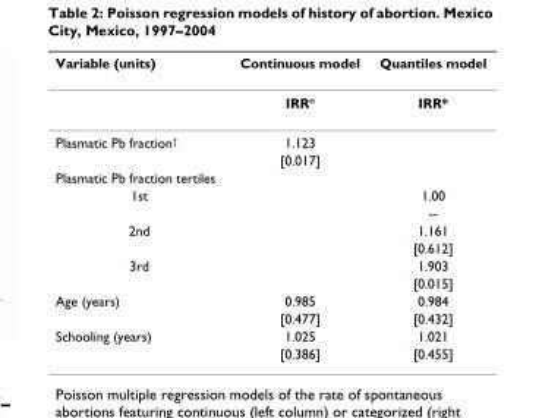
<table><thead><tr><td>Variable (units)</td><td>Continuous model</td><td>Quantiles model</td></tr></thead><tbody><tr><td></td><td>IRR*</td><td>IRR*</td></tr><tr><td rowspan="2">Plasmatic Pb fraction<sup>†</sup></td><td>1.123</td><td></td></tr><tr><td>[0.017]</td><td></td></tr><tr><td colspan="3">Plasmatic Pb fraction tertiles</td></tr><tr><td rowspan="2">1st</td><td></td><td>1.00</td></tr><tr><td></td><td>--</td></tr><tr><td rowspan="2">2nd</td><td></td><td>1.161</td></tr><tr><td></td><td>[0.612]</td></tr><tr><td rowspan="2">3rd</td><td></td><td>1.903</td></tr><tr><td></td><td>[0.015]</td></tr><tr><td rowspan="2">Age (years)</td><td>0.985</td><td>0.984</td></tr><tr><td>[0.477]</td><td>[0.432]</td></tr><tr><td rowspan="2">Schooling (years)</td><td>1.025</td><td>1.021</td></tr><tr><td>[0.386]</td><td>[0.455]</td></tr></tbody></table>